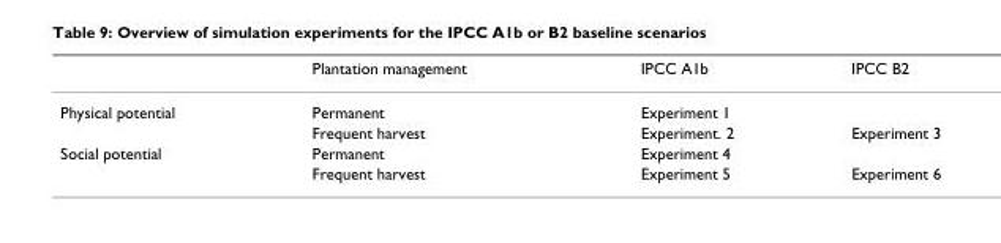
<table><thead><tr><td></td><td>Plantation management</td><td>IPCC A1b</td><td>IPCC B2</td></tr></thead><tbody><tr><td rowspan="2">Physical potential</td><td>Permanent</td><td>Experiment 1</td><td></td></tr><tr><td>Frequent harvest</td><td>Experiment. 2</td><td>Experiment 3</td></tr><tr><td rowspan="2">Social potential</td><td>Permanent</td><td>Experiment 4</td><td></td></tr><tr><td>Frequent harvest</td><td>Experiment 5</td><td>Experiment 6</td></tr></tbody></table>